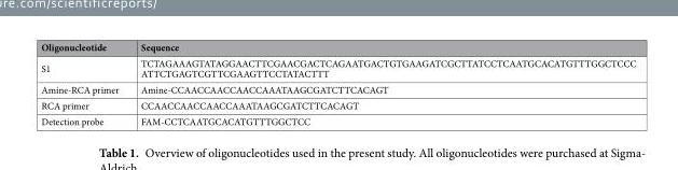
<table><thead><tr><td>Oligonucleotide</td><td>Sequence</td></tr></thead><tbody><tr><td>S1</td><td>TCTAGAAAGTATAGGAACTTCGAACGACTCAGAATGACTGTGAAGATCGCTTATCCTCAATGCACATGTTTGGCTCCC ATTCTGAGTCGTTCGAAGTTCCTATACTTT</td></tr><tr><td>Amine-RCA primer</td><td>Amine-CCAACCAACCAACCAAATAAGCGATCTTCACAGT</td></tr><tr><td>RCA primer</td><td>CCAACCAACCAACCAAATAAGCGATCTTCACAGT</td></tr><tr><td>Detection probe</td><td>FAM-CCTCAATGCACATGTTTGGCTCC</td></tr></tbody></table>